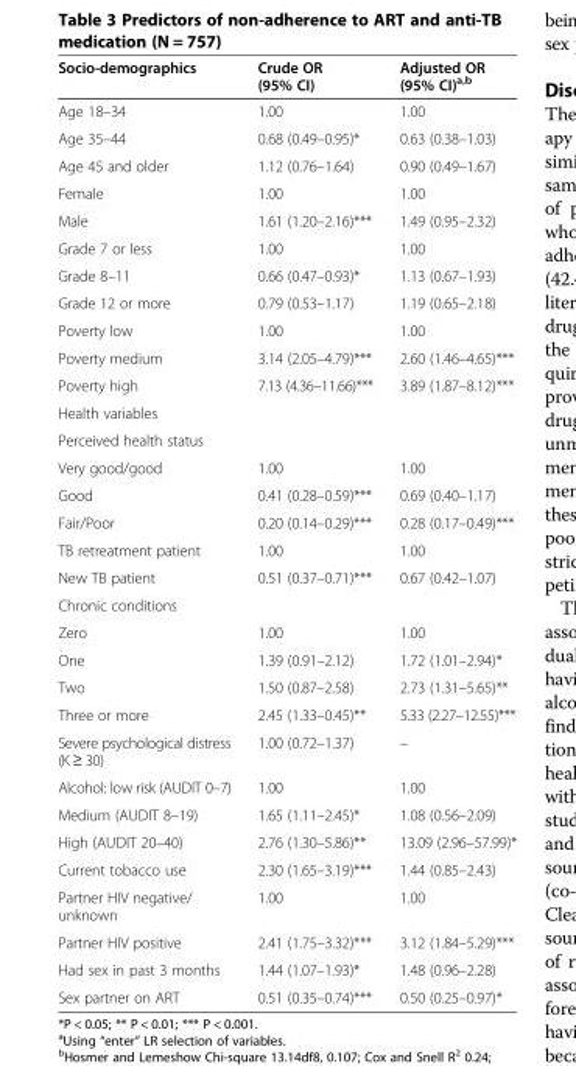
<table><thead><tr><td>Socio-demographics</td><td>Crude OR (95% CI)</td><td>Adjusted OR (95% CI)<sup>a,b</sup></td></tr></thead><tbody><tr><td>Age 18–34</td><td>1.00</td><td>1.00</td></tr><tr><td>Age 35–44</td><td>0.68 (0.49–0.95)*</td><td>0.63 (0.38–1.03)</td></tr><tr><td>Age 45 and older</td><td>1.12 (0.76–1.64)</td><td>0.90 (0.49–1.67)</td></tr><tr><td>Female</td><td>1.00</td><td>1.00</td></tr><tr><td>Male</td><td>1.61 (1.20–2.16)***</td><td>1.49 (0.95–2.32)</td></tr><tr><td>Grade 7 or less</td><td>1.00</td><td>1.00</td></tr><tr><td>Grade 8–11</td><td>0.66 (0.47–0.93)*</td><td>1.13 (0.67–1.93)</td></tr><tr><td>Grade 12 or more</td><td>0.79 (0.53–1.17)</td><td>1.19 (0.65–2.18)</td></tr><tr><td>Poverty low</td><td>1.00</td><td>1.00</td></tr><tr><td>Poverty medium</td><td>3.14 (2.05–4.79)***</td><td>2.60 (1.46–4.65)***</td></tr><tr><td>Poverty high</td><td>7.13 (4.36–11.66)***</td><td>3.89 (1.87–8.12)***</td></tr><tr><td colspan="3">Health variables</td></tr><tr><td colspan="3">Perceived health status</td></tr><tr><td>Very good/good</td><td>1.00</td><td>1.00</td></tr><tr><td>Good</td><td>0.41 (0.28–0.59)***</td><td>0.69 (0.40–1.17)</td></tr><tr><td>Fair/Poor</td><td>0.20 (0.14–0.29)***</td><td>0.28 (0.17–0.49)***</td></tr><tr><td>TB retreatment patient</td><td>1.00</td><td>1.00</td></tr><tr><td>New TB patient</td><td>0.51 (0.37–0.71)***</td><td>0.67 (0.42–1.07)</td></tr><tr><td colspan="3">Chronic conditions</td></tr><tr><td>Zero</td><td>1.00</td><td>1.00</td></tr><tr><td>One</td><td>1.39 (0.91–2.12)</td><td>1.72 (1.01–2.94)*</td></tr><tr><td>Two</td><td>1.50 (0.87–2.58)</td><td>2.73 (1.31–5.65)**</td></tr><tr><td>Three or more</td><td>2.45 (1.33–0.45)**</td><td>5.33 (2.27–12.55)***</td></tr><tr><td>Severe psychological distress (K ≥ 30)</td><td>1.00 (0.72–1.37)</td><td>–</td></tr><tr><td>Alcohol: low risk (AUDIT 0–7)</td><td>1.00</td><td>1.00</td></tr><tr><td>Medium (AUDIT 8–19)</td><td>1.65 (1.11–2.45)*</td><td>1.08 (0.56–2.09)</td></tr><tr><td>High (AUDIT 20–40)</td><td>2.76 (1.30–5.86)**</td><td>13.09 (2.96–57.99)*</td></tr><tr><td>Current tobacco use</td><td>2.30 (1.65–3.19)***</td><td>1.44 (0.85–2.43)</td></tr><tr><td>Partner HIV negative/ unknown</td><td>1.00</td><td>1.00</td></tr><tr><td>Partner HIV positive</td><td>2.41 (1.75–3.32)***</td><td>3.12 (1.84–5.29)***</td></tr><tr><td>Had sex in past 3 months</td><td>1.44 (1.07–1.93)*</td><td>1.48 (0.96–2.28)</td></tr><tr><td>Sex partner on ART</td><td>0.51 (0.35–0.74)***</td><td>0.50 (0.25–0.97)*</td></tr></tbody></table>